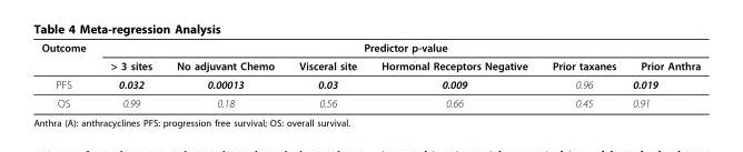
<table><thead><tr><td rowspan="2">Outcome</td><td colspan="6">Predictor p-value</td></tr><tr><td>&gt; 3 sites</td><td>No adjuvant Chemo</td><td>Visceral site</td><td>Hormonal Receptors Negative</td><td>Prior taxanes</td><td>Prior Anthra</td></tr></thead><tbody><tr><td>PFS</td><td>0.032</td><td>0.00013</td><td>0.03</td><td>0.009</td><td>0.96</td><td>0.019</td></tr><tr><td>OS</td><td>0.99</td><td>0.18</td><td>0.56</td><td>0.66</td><td>0.45</td><td>0.91</td></tr></tbody></table>